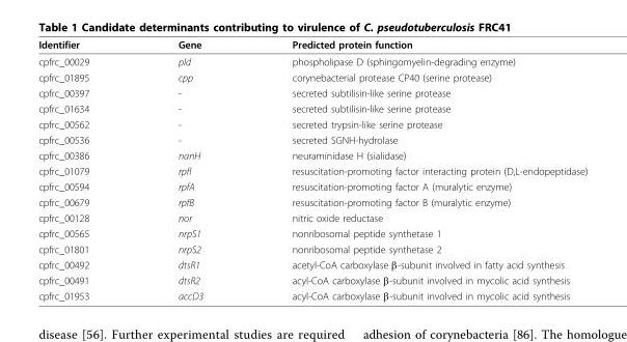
<table><thead><tr><td>Identifier</td><td>Gene</td><td>Predicted protein function</td></tr></thead><tbody><tr><td>cpfrc_00029</td><td>pld</td><td>phospholipase D (sphingomyelin-degrading enzyme)</td></tr><tr><td>cpfrc_01895</td><td>cpp</td><td>corynebacterial protease CP40 (serine protease)</td></tr><tr><td>cpfrc_00397</td><td>-</td><td>secreted subtilisin-like serine protease</td></tr><tr><td>cpfrc_01634</td><td>-</td><td>secreted subtilisin-like serine protease</td></tr><tr><td>cpfrc_00562</td><td>-</td><td>secreted trypsin-like serine protease</td></tr><tr><td>cpfrc_00536</td><td>-</td><td>secreted SGNH-hydrolase</td></tr><tr><td>cpfrc_00386</td><td>nanH</td><td>neuraminidase H (sialidase)</td></tr><tr><td>cpfrc_01079</td><td>rpfI</td><td>resuscitation-promoting factor interacting protein (D,L-endopeptidase)</td></tr><tr><td>cpfrc_00594</td><td>rpfA</td><td>resuscitation-promoting factor A (muralytic enzyme)</td></tr><tr><td>cpfrc_00679</td><td>rpfB</td><td>resuscitation-promoting factor B (muralytic enzyme)</td></tr><tr><td>cpfrc_00128</td><td>nor</td><td>nitric oxide reductase</td></tr><tr><td>cpfrc_00565</td><td>nrpS1</td><td>nonribosomal peptide synthetase 1</td></tr><tr><td>cpfrc_01801</td><td>nrpS2</td><td>nonribosomal peptide synthetase 2</td></tr><tr><td>cpfrc_00492</td><td>dtsR1</td><td>acetyl-CoA carboxylase β-subunit involved in fatty acid synthesis</td></tr><tr><td>cpfrc_00491</td><td>dtsR2</td><td>acyl-CoA carboxylase β-subunit involved in mycolic acid synthesis</td></tr><tr><td>cpfrc_01953</td><td>accD3</td><td>acyl-CoA carboxylase β-subunit involved in mycolic acid synthesis</td></tr></tbody></table>